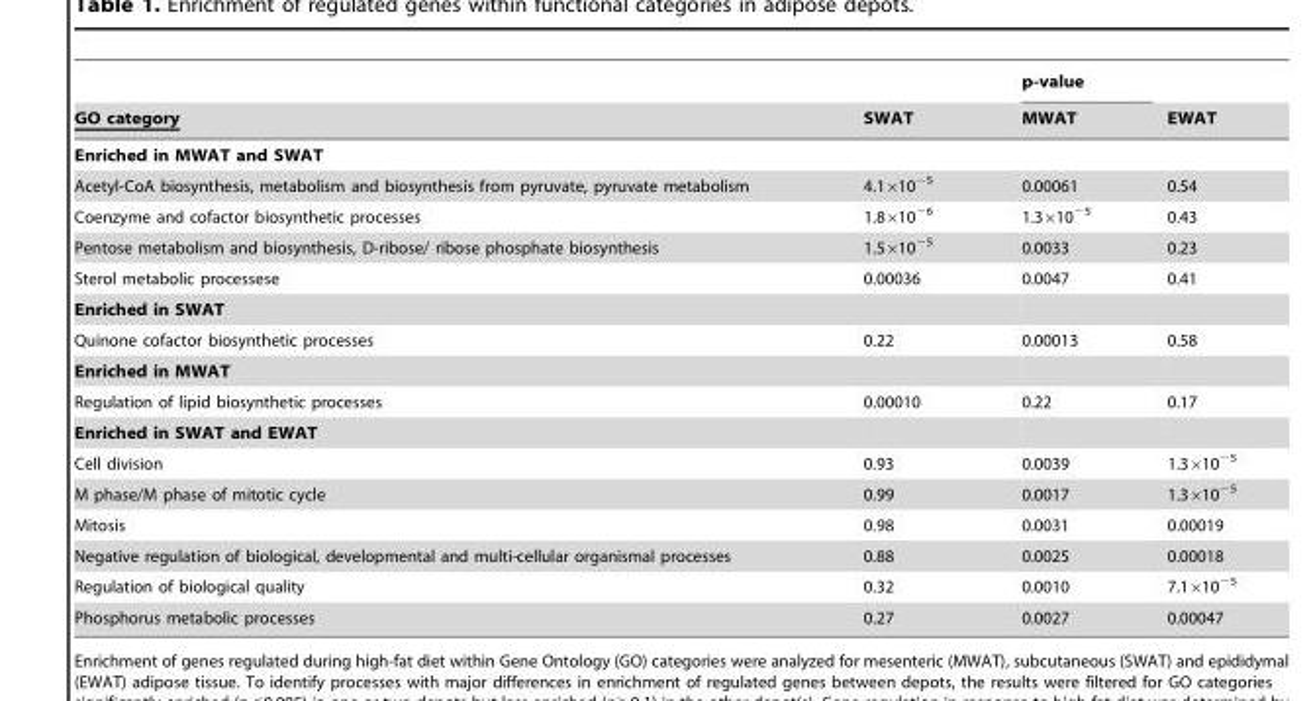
<table><thead><tr><td rowspan="2">GO category</td><td rowspan="2">SWAT</td><td rowspan="2">p-value MWAT</td><td rowspan="2">EWAT</td></tr><tr></tr></thead><tbody><tr><td colspan="4">Enriched in MWAT and SWAT</td></tr><tr><td>Acetyl-CoA biosynthesis, metabolism and biosynthesis from pyruvate, pyruvate metabolism</td><td>4.1×10<sup>−5</sup></td><td>0.00061</td><td>0.54</td></tr><tr><td>Coenzyme and cofactor biosynthetic processes</td><td>1.8×10<sup>−6</sup></td><td>1.3×10<sup>−5</sup></td><td>0.43</td></tr><tr><td>Pentose metabolism and biosynthesis, D-ribose/ ribose phosphate biosynthesis</td><td>1.5×10<sup>−5</sup></td><td>0.0033</td><td>0.23</td></tr><tr><td>Sterol metabolic processese</td><td>0.00036</td><td>0.0047</td><td>0.41</td></tr><tr><td colspan="4">Enriched in SWAT</td></tr><tr><td>Quinone cofactor biosynthetic processes</td><td>0.22</td><td>0.00013</td><td>0.58</td></tr><tr><td colspan="4">Enriched in MWAT</td></tr><tr><td>Regulation of lipid biosynthetic processes</td><td>0.00010</td><td>0.22</td><td>0.17</td></tr><tr><td colspan="4">Enriched in SWAT and EWAT</td></tr><tr><td>Cell division</td><td>0.93</td><td>0.0039</td><td>1.3×10<sup>−5</sup></td></tr><tr><td>M phase/M phase of mitotic cycle</td><td>0.99</td><td>0.0017</td><td>1.3×10<sup>−5</sup></td></tr><tr><td>Mitosis</td><td>0.98</td><td>0.0031</td><td>0.00019</td></tr><tr><td>Negative regulation of biological, developmental and multi-cellular organismal processes</td><td>0.88</td><td>0.0025</td><td>0.00018</td></tr><tr><td>Regulation of biological quality</td><td>0.32</td><td>0.0010</td><td>7.1×10<sup>−5</sup></td></tr><tr><td>Phosphorus metabolic processes</td><td>0.27</td><td>0.0027</td><td>0.00047</td></tr></tbody></table>